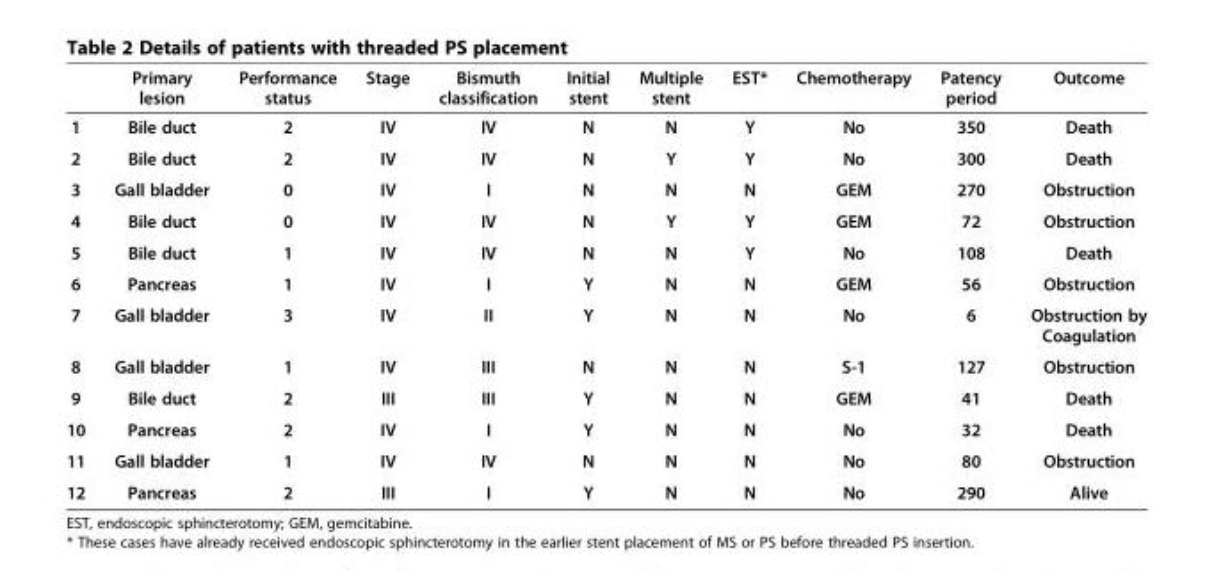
<table><thead><tr><td></td><td>Primary lesion</td><td>Performance status</td><td>Stage</td><td>Bismuth classification</td><td>Initial stent</td><td>Multiple stent</td><td>EST*</td><td>Chemotherapy</td><td>Patency period</td><td>Outcome</td></tr></thead><tbody><tr><td>1</td><td>Bile duct</td><td>2</td><td>IV</td><td>IV</td><td>N</td><td>N</td><td>Y</td><td>No</td><td>350</td><td>Death</td></tr><tr><td>2</td><td>Bile duct</td><td>2</td><td>IV</td><td>IV</td><td>N</td><td>Y</td><td>Y</td><td>No</td><td>300</td><td>Death</td></tr><tr><td>3</td><td>Gall bladder</td><td>0</td><td>IV</td><td>I</td><td>N</td><td>N</td><td>N</td><td>GEM</td><td>270</td><td>Obstruction</td></tr><tr><td>4</td><td>Bile duct</td><td>0</td><td>IV</td><td>IV</td><td>N</td><td>Y</td><td>Y</td><td>GEM</td><td>72</td><td>Obstruction</td></tr><tr><td>5</td><td>Bile duct</td><td>1</td><td>IV</td><td>IV</td><td>N</td><td>N</td><td>Y</td><td>No</td><td>108</td><td>Death</td></tr><tr><td>6</td><td>Pancreas</td><td>1</td><td>IV</td><td>I</td><td>Y</td><td>N</td><td>N</td><td>GEM</td><td>56</td><td>Obstruction</td></tr><tr><td>7</td><td>Gall bladder</td><td>3</td><td>IV</td><td>II</td><td>Y</td><td>N</td><td>N</td><td>No</td><td>6</td><td>Obstruction by Coagulation</td></tr><tr><td>8</td><td>Gall bladder</td><td>1</td><td>IV</td><td>III</td><td>N</td><td>N</td><td>N</td><td>S-1</td><td>127</td><td>Obstruction</td></tr><tr><td>9</td><td>Bile duct</td><td>2</td><td>III</td><td>III</td><td>Y</td><td>N</td><td>N</td><td>GEM</td><td>41</td><td>Death</td></tr><tr><td>10</td><td>Pancreas</td><td>2</td><td>IV</td><td>I</td><td>Y</td><td>N</td><td>N</td><td>No</td><td>32</td><td>Death</td></tr><tr><td>11</td><td>Gall bladder</td><td>1</td><td>IV</td><td>IV</td><td>N</td><td>N</td><td>N</td><td>No</td><td>80</td><td>Obstruction</td></tr><tr><td>12</td><td>Pancreas</td><td>2</td><td>III</td><td>I</td><td>Y</td><td>N</td><td>N</td><td>No</td><td>290</td><td>Alive</td></tr></tbody></table>